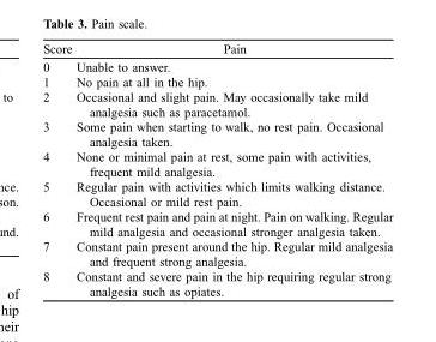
<table><thead><tr><td>Score</td><td>Pain</td></tr></thead><tbody><tr><td>0</td><td>Unable to answer.</td></tr><tr><td>1</td><td>No pain at all in the hip.</td></tr><tr><td>2</td><td>Occasional and slight pain. May occasionally take mild analgesia such as paracetamol.</td></tr><tr><td>3</td><td>Some pain when starting to walk, no rest pain. Occasional analgesia taken.</td></tr><tr><td>4</td><td>None or minimal pain at rest, some pain with activities, frequent mild analgesia.</td></tr><tr><td>5</td><td>Regular pain with activities which limits walking distance. Occasional or mild rest pain.</td></tr><tr><td>6</td><td>Frequent rest pain and pain at night. Pain on walking. Regular mild analgesia and occasional stronger analgesia taken.</td></tr><tr><td>7</td><td>Constant pain present around the hip. Regular mild analgesia and frequent strong analgesia.</td></tr><tr><td>8</td><td>Constant and severe pain in the hip requiring regular strong analgesia such as opiates.</td></tr></tbody></table>